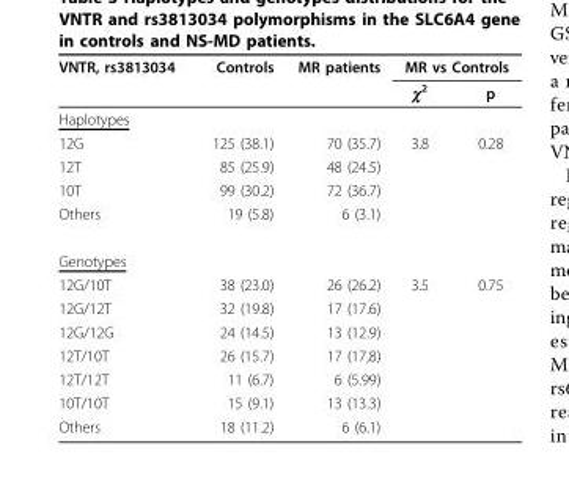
<table><thead><tr><td rowspan="2">VNTR, rs3813034</td><td rowspan="2">Controls</td><td rowspan="2">MR patients</td><td colspan="2">MR vs Controls</td></tr><tr><td>χ<sup>2</sup></td><td>p</td></tr></thead><tbody><tr><td colspan="5">Haplotypes</td></tr><tr><td>12G</td><td>125 (38.1)</td><td>70 (35.7)</td><td>3.8</td><td>0.28</td></tr><tr><td>12T</td><td>85 (25.9)</td><td>48 (24.5)</td><td></td><td></td></tr><tr><td>10T</td><td>99 (30.2)</td><td>72 (36.7)</td><td></td><td></td></tr><tr><td>Others</td><td>19 (5.8)</td><td>6 (3.1)</td><td></td><td></td></tr><tr><td colspan="5">Genotypes</td></tr><tr><td>12G/10T</td><td>38 (23.0)</td><td>26 (26.2)</td><td>3.5</td><td>0.75</td></tr><tr><td>12G/12T</td><td>32 (19.8)</td><td>17 (17.6)</td><td></td><td></td></tr><tr><td>12G/12G</td><td>24 (14.5)</td><td>13 (12.9)</td><td></td><td></td></tr><tr><td>12T/10T</td><td>26 (15.7)</td><td>17 (17,8)</td><td></td><td></td></tr><tr><td>12T/12T</td><td>11 (6.7)</td><td>6 (5.99)</td><td></td><td></td></tr><tr><td>10T/10T</td><td>15 (9.1)</td><td>13 (13.3)</td><td></td><td></td></tr><tr><td>Others</td><td>18 (11.2)</td><td>6 (6.1)</td><td></td><td></td></tr></tbody></table>